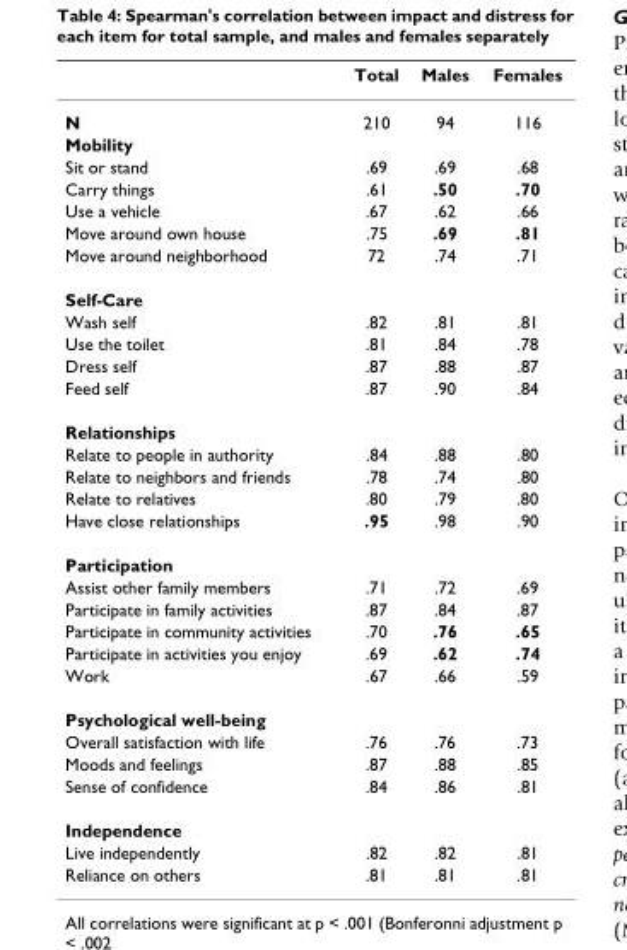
<table><thead><tr><td></td><td>Total</td><td>Males</td><td>Females</td></tr></thead><tbody><tr><td>N</td><td>210</td><td>94</td><td>116</td></tr><tr><td colspan="4">Mobility</td></tr><tr><td>Sit or stand</td><td>.69</td><td>.69</td><td>.68</td></tr><tr><td>Carry things</td><td>.61</td><td>.50</td><td>.70</td></tr><tr><td>Use a vehicle</td><td>.67</td><td>.62</td><td>.66</td></tr><tr><td>Move around own house</td><td>.75</td><td>.69</td><td>.81</td></tr><tr><td>Move around neighborhood</td><td>72</td><td>.74</td><td>.71</td></tr><tr><td colspan="4">Self-Care</td></tr><tr><td>Wash self</td><td>.82</td><td>.81</td><td>.81</td></tr><tr><td>Use the toilet</td><td>.81</td><td>.84</td><td>.78</td></tr><tr><td>Dress self</td><td>.87</td><td>.88</td><td>.87</td></tr><tr><td>Feed self</td><td>.87</td><td>.90</td><td>.84</td></tr><tr><td colspan="4">Relationships</td></tr><tr><td>Relate to people in authority</td><td>.84</td><td>.88</td><td>.80</td></tr><tr><td>Relate to neighbors and friends</td><td>.78</td><td>.74</td><td>.80</td></tr><tr><td>Relate to relatives</td><td>.80</td><td>.79</td><td>.80</td></tr><tr><td>Have close relationships</td><td>.95</td><td>.98</td><td>.90</td></tr><tr><td colspan="4">Participation</td></tr><tr><td>Assist other family members</td><td>.71</td><td>.72</td><td>.69</td></tr><tr><td>Participate in family activities</td><td>.87</td><td>.84</td><td>.87</td></tr><tr><td>Participate in community activities</td><td>.70</td><td>.76</td><td>.65</td></tr><tr><td>Participate in activities you enjoy</td><td>.69</td><td>.62</td><td>.74</td></tr><tr><td>Work</td><td>.67</td><td>.66</td><td>.59</td></tr><tr><td colspan="4">Psychological well-being</td></tr><tr><td>Overall satisfaction with life</td><td>.76</td><td>.76</td><td>.73</td></tr><tr><td>Moods and feelings</td><td>.87</td><td>.88</td><td>.85</td></tr><tr><td>Sense of confidence</td><td>.84</td><td>.86</td><td>.81</td></tr><tr><td colspan="4">Independence</td></tr><tr><td>Live independently</td><td>.82</td><td>.82</td><td>.81</td></tr><tr><td>Reliance on others</td><td>.81</td><td>.81</td><td>.81</td></tr></tbody></table>